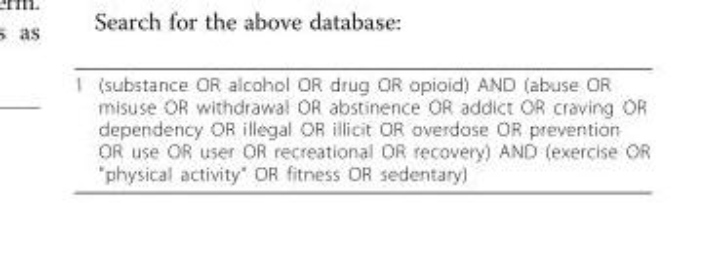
<table><tbody><tr><td>1</td><td>(substance OR alcohol OR drug OR opioid) AND (abuse OR misuse OR withdrawal OR abstinence OR addict OR craving OR dependency OR illegal OR illicit OR overdose OR prevention OR use OR user OR recreational OR recovery) AND (exercise OR &quot;physical activity&quot; OR fitness OR sedentary)</td></tr></tbody></table>